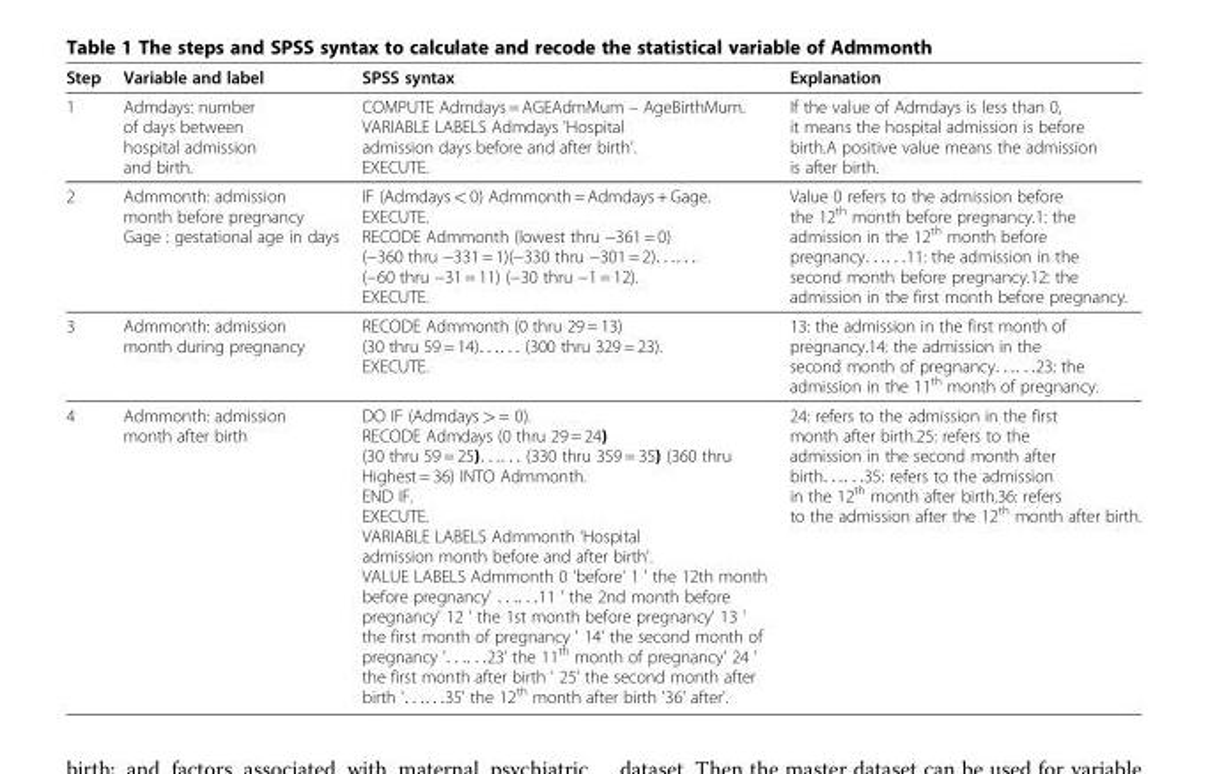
<table><thead><tr><td>Step</td><td>Variable and label</td><td>SPSS syntax</td><td>Explanation</td></tr></thead><tbody><tr><td>1</td><td>Admdays: number of days between hospital admission and birth.</td><td>COMPUTE Admdays = AGEAdmMum – AgeBirthMum. VARIABLE LABELS Admdays &#x27;Hospital admission days before and after birth&#x27;. EXECUTE.</td><td>If the value of Admdays is less than 0, it means the hospital admission is before birth.A positive value means the admission is after birth.</td></tr><tr><td>2</td><td>Admmonth: admission month before pregnancy Gage : gestational age in days</td><td>IF (Admdays &lt; 0) Admmonth = Admdays + Gage. EXECUTE. RECODE Admmonth (lowest thru −361 = 0) (−360 thru −331 = 1)(−330 thru −301 = 2). . .. . . (−60 thru −31 = 11) (−30 thru −1 = 12). EXECUTE.</td><td>Value 0 refers to the admission before the 12<sup>th</sup> month before pregnancy.1: the admission in the 12<sup>th</sup> month before pregnancy. . .. . .11: the admission in the second month before pregnancy.12: the admission in the first month before pregnancy.</td></tr><tr><td>3</td><td>Admmonth: admission month during pregnancy</td><td>RECODE Admmonth (0 thru 29 = 13) (30 thru 59 = 14). . .. . . (300 thru 329 = 23). EXECUTE.</td><td>13: the admission in the first month of pregnancy.14: the admission in the second month of pregnancy. . .. . .23: the admission in the 11<sup>th</sup> month of pregnancy.</td></tr><tr><td>4</td><td>Admmonth: admission month after birth</td><td>DO IF (Admdays &gt; = 0). RECODE Admdays (0 thru 29 = 24) (30 thru 59 = 25). . .. . . (330 thru 359 = 35) (360 thru Highest = 36) INTO Admmonth. END IF. EXECUTE. VARIABLE LABELS Admmonth &#x27;Hospital admission month before and after birth&#x27;. VALUE LABELS Admmonth 0 &#x27;before&#x27; 1 &#x27; the 12th month before pregnancy&#x27; . . .. . .11 &#x27; the 2nd month before pregnancy&#x27; 12 &#x27; the 1st month before pregnancy’ 13 &#x27; the first month of pregnancy &#x27; 14&#x27; the second month of pregnancy &#x27;. . .. . .23&#x27; the 11<sup>th</sup> month of pregnancy&#x27; 24 &#x27; the first month after birth &#x27; 25&#x27; the second month after birth &#x27;. . .. . .35&#x27; the 12<sup>th</sup> month after birth &#x27;36&#x27; after&#x27;.</td><td>24: refers to the admission in the first month after birth.25: refers to the admission in the second month after birth. . .. . .35: refers to the admission in the 12<sup>th</sup> month after birth.36: refers to the admission after the 12<sup>th</sup> month after birth.</td></tr></tbody></table>